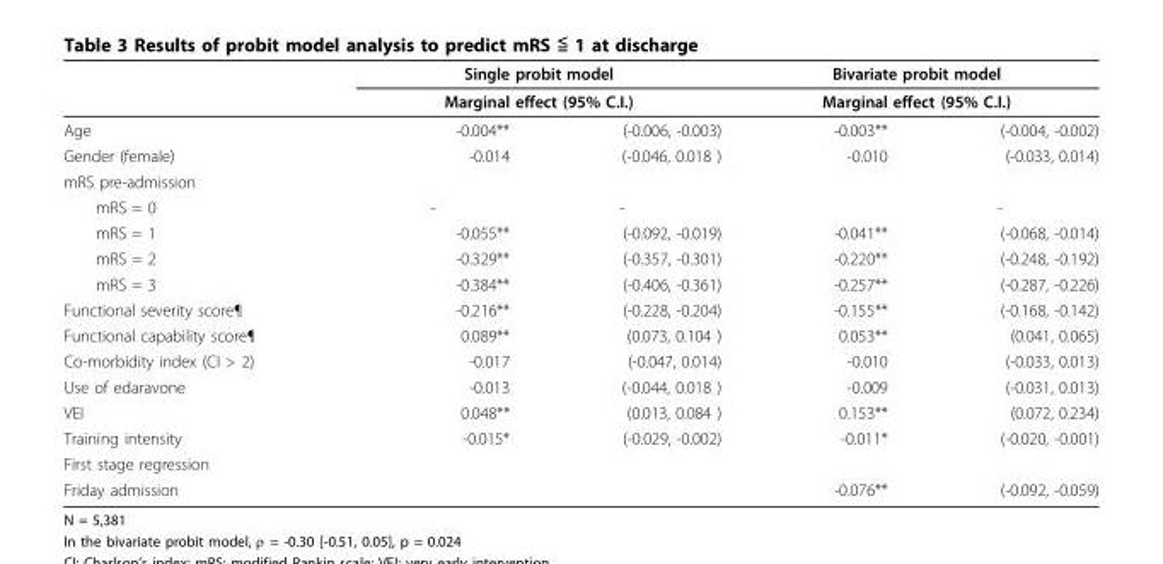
<table><thead><tr><td rowspan="3">Age</td><td rowspan="2" colspan="2">Single probit model Marginal effect (95% C.I.)</td><td rowspan="2" colspan="2">Bivariate probit model Marginal effect (95% C.I.)</td></tr><tr></tr><tr><td>-0.004**</td><td>(-0.006, -0.003)</td><td>-0.003**</td><td>(-0.004, -0.002)</td></tr></thead><tbody><tr><td>Gender (female)</td><td>-0.014</td><td>(-0.046, 0.018 )</td><td>-0.010</td><td>(-0.033, 0.014)</td></tr><tr><td colspan="5">mRS pre-admission</td></tr><tr><td>mRS = 0</td><td>-</td><td>-</td><td></td><td>-</td></tr><tr><td>mRS = 1</td><td>-0.055**</td><td>(-0.092, -0.019)</td><td>-0.041**</td><td>(-0.068, -0.014)</td></tr><tr><td>mRS = 2</td><td>-0.329**</td><td>(-0.357, -0.301)</td><td>-0.220**</td><td>(-0.248, -0.192)</td></tr><tr><td>mRS = 3</td><td>-0.384**</td><td>(-0.406, -0.361)</td><td>-0.257**</td><td>(-0.287, -0.226)</td></tr><tr><td>Functional severity score¶</td><td>-0.216**</td><td>(-0.228, -0.204)</td><td>-0.155**</td><td>(-0.168, -0.142)</td></tr><tr><td>Functional capability score¶</td><td>0.089**</td><td>(0.073, 0.104 )</td><td>0.053**</td><td>(0.041, 0.065)</td></tr><tr><td>Co-morbidity index (CI &gt; 2)</td><td>-0.017</td><td>(-0.047, 0.014)</td><td>-0.010</td><td>(-0.033, 0.013)</td></tr><tr><td>Use of edaravone</td><td>-0.013</td><td>(-0.044, 0.018 )</td><td>-0.009</td><td>(-0.031, 0.013)</td></tr><tr><td>VEI</td><td>0.048**</td><td>(0.013, 0.084 )</td><td>0.153**</td><td>(0.072, 0.234)</td></tr><tr><td>Training intensity</td><td>-0.015*</td><td>(-0.029, -0.002)</td><td>-0.011*</td><td>(-0.020, -0.001)</td></tr><tr><td colspan="5">First stage regression</td></tr><tr><td>Friday admission</td><td></td><td></td><td>-0.076**</td><td>(-0.092, -0.059)</td></tr></tbody></table>